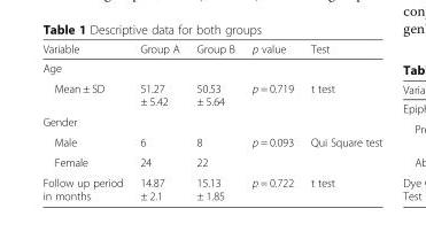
<table><thead><tr><td>Variable</td><td>Group A</td><td>Group B</td><td>p value</td><td>Test</td></tr></thead><tbody><tr><td colspan="5">Age</td></tr><tr><td>Mean ± SD</td><td>51.27 ± 5.42</td><td>50.53 ± 5.64</td><td>p = 0.719</td><td>t test</td></tr><tr><td colspan="5">Gender</td></tr><tr><td>Male</td><td>6</td><td>8</td><td>p = 0.093</td><td>Qui Square test</td></tr><tr><td>Female</td><td>24</td><td>22</td><td></td><td></td></tr><tr><td>Follow up period in months</td><td>14.87 ± 2.1</td><td>15.13 ± 1.85</td><td>p = 0.722</td><td>t test</td></tr></tbody></table>